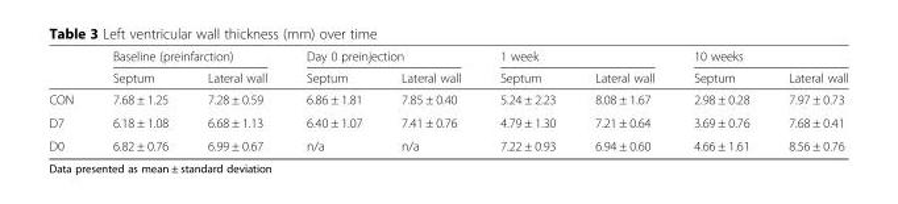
<table><thead><tr><td rowspan="2"></td><td colspan="2">Baseline (preinfarction)</td><td colspan="2">Day 0 preinjection</td><td colspan="2">1 week</td><td colspan="2">10 weeks</td></tr><tr><td>Septum</td><td>Lateral wall</td><td>Septum</td><td>Lateral wall</td><td>Septum</td><td>Lateral wall</td><td>Septum</td><td>Lateral wall</td></tr></thead><tbody><tr><td>CON</td><td>7.68 ± 1.25</td><td>7.28 ± 0.59</td><td>6.86 ± 1.81</td><td>7.85 ± 0.40</td><td>5.24 ± 2.23</td><td>8.08 ± 1.67</td><td>2.98 ± 0.28</td><td>7.97 ± 0.73</td></tr><tr><td>D7</td><td>6.18 ± 1.08</td><td>6.68 ± 1.13</td><td>6.40 ± 1.07</td><td>7.41 ± 0.76</td><td>4.79 ± 1.30</td><td>7.21 ± 0.64</td><td>3.69 ± 0.76</td><td>7.68 ± 0.41</td></tr><tr><td>D0</td><td>6.82 ± 0.76</td><td>6.99 ± 0.67</td><td>n/a</td><td>n/a</td><td>7.22 ± 0.93</td><td>6.94 ± 0.60</td><td>4.66 ± 1.61</td><td>8.56 ± 0.76</td></tr></tbody></table>